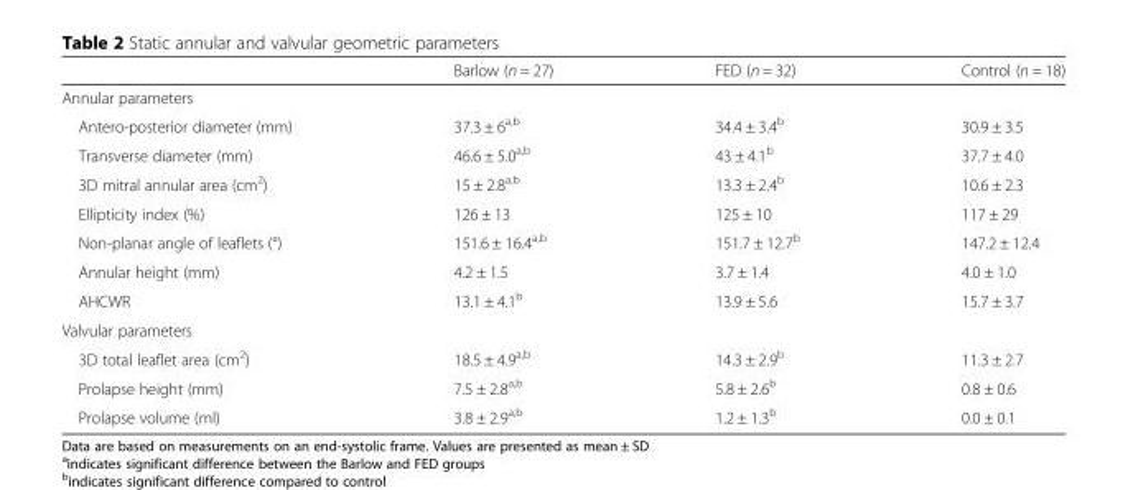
<table><thead><tr><td></td><td>Barlow (n = 27)</td><td>FED (n = 32)</td><td>Control (n = 18)</td></tr></thead><tbody><tr><td colspan="4">Annular parameters</td></tr><tr><td>Antero-posterior diameter (mm)</td><td>37.3 ± 6<sup>a,b</sup></td><td>34.4 ± 3.4<sup>b</sup></td><td>30.9 ± 3.5</td></tr><tr><td>Transverse diameter (mm)</td><td>46.6 ± 5.0<sup>a,b</sup></td><td>43 ± 4.1<sup>b</sup></td><td>37.7 ± 4.0</td></tr><tr><td>3D mitral annular area (cm<sup>2</sup>)</td><td>15 ± 2.8<sup>a,b</sup></td><td>13.3 ± 2.4<sup>b</sup></td><td>10.6 ± 2.3</td></tr><tr><td>Ellipticity index (%)</td><td>126 ± 13</td><td>125 ± 10</td><td>117 ± 29</td></tr><tr><td>Non-planar angle of leaflets (°)</td><td>151.6 ± 16.4<sup>a,b</sup></td><td>151.7 ± 12.7<sup>b</sup></td><td>147.2 ± 12.4</td></tr><tr><td>Annular height (mm)</td><td>4.2 ± 1.5</td><td>3.7 ± 1.4</td><td>4.0 ± 1.0</td></tr><tr><td>AHCWR</td><td>13.1 ± 4.1<sup>b</sup></td><td>13.9 ± 5.6</td><td>15.7 ± 3.7</td></tr><tr><td colspan="4">Valvular parameters</td></tr><tr><td>3D total leaflet area (cm<sup>2</sup>)</td><td>18.5 ± 4.9<sup>a,b</sup></td><td>14.3 ± 2.9<sup>b</sup></td><td>11.3 ± 2.7</td></tr><tr><td>Prolapse height (mm)</td><td>7.5 ± 2.8<sup>a,b</sup></td><td>5.8 ± 2.6<sup>b</sup></td><td>0.8 ± 0.6</td></tr><tr><td>Prolapse volume (ml)</td><td>3.8 ± 2.9<sup>a,b</sup></td><td>1.2 ± 1.3<sup>b</sup></td><td>0.0 ± 0.1</td></tr></tbody></table>